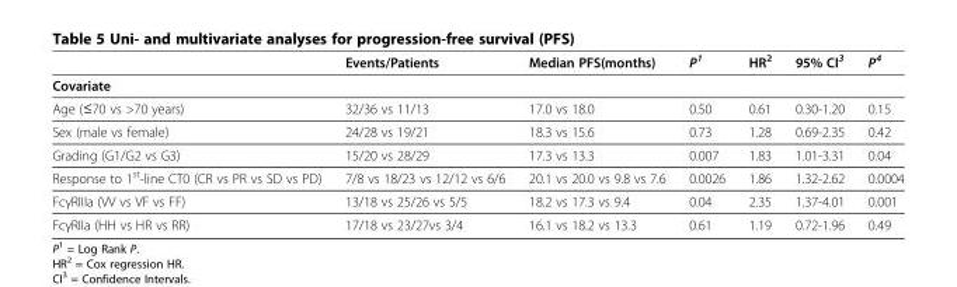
<table><thead><tr><td></td><td>Events/Patients</td><td>Median PFS(months)</td><td>P<sup>1</sup></td><td>HR<sup>2</sup></td><td>95% CI<sup>3</sup></td><td>P<sup>4</sup></td></tr></thead><tbody><tr><td colspan="7">Covariate</td></tr><tr><td>Age (≤70 vs &gt;70 years)</td><td>32/36 vs 11/13</td><td>17.0 vs 18.0</td><td>0.50</td><td>0.61</td><td>0.30-1.20</td><td>0.15</td></tr><tr><td>Sex (male vs female)</td><td>24/28 vs 19/21</td><td>18.3 vs 15.6</td><td>0.73</td><td>1.28</td><td>0.69-2.35</td><td>0.42</td></tr><tr><td>Grading (G1/G2 vs G3)</td><td>15/20 vs 28/29</td><td>17.3 vs 13.3</td><td>0.007</td><td>1.83</td><td>1.01-3.31</td><td>0.04</td></tr><tr><td>Response to 1<sup>st</sup>-line CT0 (CR vs PR vs SD vs PD)</td><td>7/8 vs 18/23 vs 12/12 vs 6/6</td><td>20.1 vs 20.0 vs 9.8 vs 7.6</td><td>0.0026</td><td>1.86</td><td>1.32-2.62</td><td>0.0004</td></tr><tr><td>FcγRIIIa (VV vs VF vs FF)</td><td>13/18 vs 25/26 vs 5/5</td><td>18.2 vs 17.3 vs 9.4</td><td>0.04</td><td>2.35</td><td>1.37-4.01</td><td>0.001</td></tr><tr><td>FcγRIIa (HH vs HR vs RR)</td><td>17/18 vs 23/27vs 3/4</td><td>16.1 vs 18.2 vs 13.3</td><td>0.61</td><td>1.19</td><td>0.72-1.96</td><td>0.49</td></tr></tbody></table>